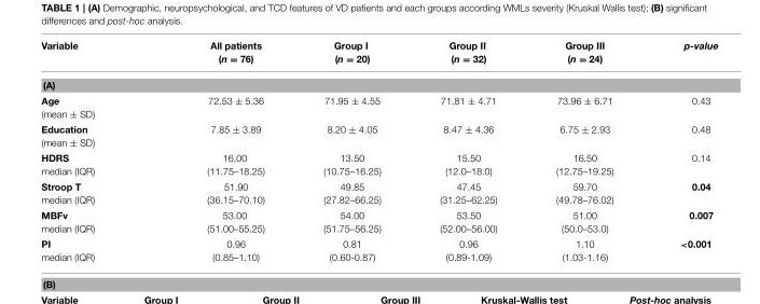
<table><thead><tr><td>Variable</td><td>All patients (n = 76)</td><td>Group I (n = 20)</td><td>Group II (n = 32)</td><td>Group III (n = 24)</td><td>p-value</td></tr></thead><tbody><tr><td colspan="6">(A)</td></tr><tr><td>Age (mean ± SD)</td><td>72.53 ± 5.36</td><td>71.95 ± 4.55</td><td>71.81 ± 4.71</td><td>73.96 ± 6.71</td><td>0.43</td></tr><tr><td>Education (mean ± SD)</td><td>7.85 ± 3.89</td><td>8.20 ± 4.05</td><td>8.47 ± 4.36</td><td>6.75 ± 2.93</td><td>0.48</td></tr><tr><td>HDRS median (IQR)</td><td>16.00 (11.75–18.25)</td><td>13.50 (10.75–16.25)</td><td>15.50 (12.0–18.0)</td><td>16.50 (12.75–19.25)</td><td>0.14</td></tr><tr><td>Stroop T median (IQR)</td><td>51.90 (36.15–70.10)</td><td>49.85 (27.82–66.25)</td><td>47.45 (31.25–62.25)</td><td>59.70 (49.78–76.02)</td><td>0.04</td></tr><tr><td>MBFv median (IQR)</td><td>53.00 (51.00–55.25)</td><td>54.00 (51.75–56.25)</td><td>53.50 (52.00–56.00)</td><td>51.00 (50.0–53.0)</td><td>0.007</td></tr><tr><td>PI median (IQR)</td><td>0.96 (0.85–1.10)</td><td>0.81 (0.60-0.87)</td><td>0.96 (0.89-1.09)</td><td>1.10 (1.03-1.16)</td><td>&lt;0.001</td></tr></tbody></table>